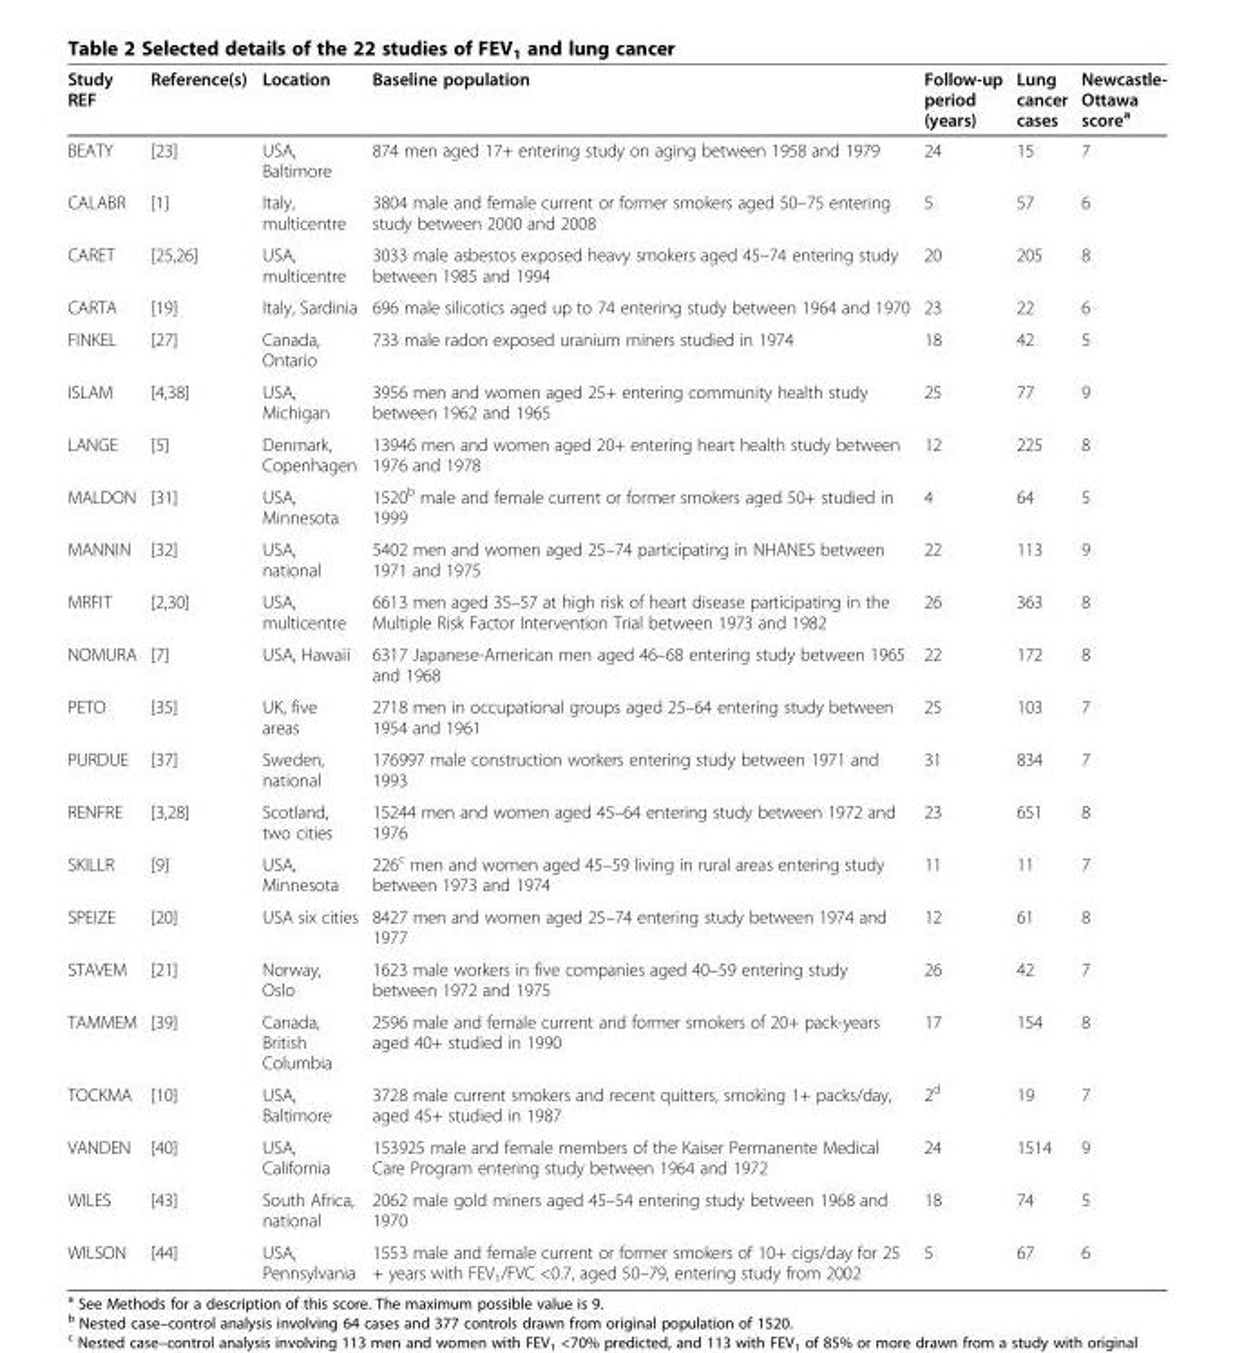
<table><thead><tr><td>Study REF</td><td>Reference(s)</td><td>Location</td><td>Baseline population</td><td>Follow-up period (years)</td><td>Lung cancer cases</td><td>Newcastle- Ottawa score<sup>a</sup></td></tr></thead><tbody><tr><td>BEATY</td><td>[23]</td><td>USA, Baltimore</td><td>874 men aged 17+ entering study on aging between 1958 and 1979</td><td>24</td><td>15</td><td>7</td></tr><tr><td>CALABR</td><td>[1]</td><td>Italy, multicentre</td><td>3804 male and female current or former smokers aged 50–75 entering study between 2000 and 2008</td><td>5</td><td>57</td><td>6</td></tr><tr><td>CARET</td><td>[25,26]</td><td>USA, multicentre</td><td>3033 male asbestos exposed heavy smokers aged 45–74 entering study between 1985 and 1994</td><td>20</td><td>205</td><td>8</td></tr><tr><td>CARTA</td><td>[19]</td><td>Italy, Sardinia</td><td>696 male silicotics aged up to 74 entering study between 1964 and 1970</td><td>23</td><td>22</td><td>6</td></tr><tr><td>FINKEL</td><td>[27]</td><td>Canada, Ontario</td><td>733 male radon exposed uranium miners studied in 1974</td><td>18</td><td>42</td><td>5</td></tr><tr><td>ISLAM</td><td>[4,38]</td><td>USA, Michigan</td><td>3956 men and women aged 25+ entering community health study between 1962 and 1965</td><td>25</td><td>77</td><td>9</td></tr><tr><td>LANGE</td><td>[5]</td><td>Denmark, Copenhagen</td><td>13946 men and women aged 20+ entering heart health study between 1976 and 1978</td><td>12</td><td>225</td><td>8</td></tr><tr><td>MALDON</td><td>[31]</td><td>USA, Minnesota</td><td>1520<sup>b</sup> male and female current or former smokers aged 50+ studied in 1999</td><td>4</td><td>64</td><td>5</td></tr><tr><td>MANNIN</td><td>[32]</td><td>USA, national</td><td>5402 men and women aged 25–74 participating in NHANES between 1971 and 1975</td><td>22</td><td>113</td><td>9</td></tr><tr><td>MRFIT</td><td>[2,30]</td><td>USA, multicentre</td><td>6613 men aged 35–57 at high risk of heart disease participating in the Multiple Risk Factor Intervention Trial between 1973 and 1982</td><td>26</td><td>363</td><td>8</td></tr><tr><td>NOMURA</td><td>[7]</td><td>USA, Hawaii</td><td>6317 Japanese-American men aged 46–68 entering study between 1965 and 1968</td><td>22</td><td>172</td><td>8</td></tr><tr><td>PETO</td><td>[35]</td><td>UK, five areas</td><td>2718 men in occupational groups aged 25–64 entering study between 1954 and 1961</td><td>25</td><td>103</td><td>7</td></tr><tr><td>PURDUE</td><td>[37]</td><td>Sweden, national</td><td>176997 male construction workers entering study between 1971 and 1993</td><td>31</td><td>834</td><td>7</td></tr><tr><td>RENFRE</td><td>[3,28]</td><td>Scotland, two cities</td><td>15244 men and women aged 45–64 entering study between 1972 and 1976</td><td>23</td><td>651</td><td>8</td></tr><tr><td>SKILLR</td><td>[9]</td><td>USA, Minnesota</td><td>226<sup>c</sup> men and women aged 45–59 living in rural areas entering study between 1973 and 1974</td><td>11</td><td>11</td><td>7</td></tr><tr><td>SPEIZE</td><td>[20]</td><td>USA six cities</td><td>8427 men and women aged 25–74 entering study between 1974 and 1977</td><td>12</td><td>61</td><td>8</td></tr><tr><td>STAVEM</td><td>[21]</td><td>Norway, Oslo</td><td>1623 male workers in five companies aged 40–59 entering study between 1972 and 1975</td><td>26</td><td>42</td><td>7</td></tr><tr><td>TAMMEM</td><td>[39]</td><td>Canada, British Columbia</td><td>2596 male and female current and former smokers of 20+ pack-years aged 40+ studied in 1990</td><td>17</td><td>154</td><td>8</td></tr><tr><td>TOCKMA</td><td>[10]</td><td>USA, Baltimore</td><td>3728 male current smokers and recent quitters, smoking 1+ packs/day, aged 45+ studied in 1987</td><td>2<sup>d</sup></td><td>19</td><td>7</td></tr><tr><td>VANDEN</td><td>[40]</td><td>USA, California</td><td>153925 male and female members of the Kaiser Permanente Medical Care Program entering study between 1964 and 1972</td><td>24</td><td>1514</td><td>9</td></tr><tr><td>WILES</td><td>[43]</td><td>South Africa, national</td><td>2062 male gold miners aged 45–54 entering study between 1968 and 1970</td><td>18</td><td>74</td><td>5</td></tr><tr><td>WILSON</td><td>[44]</td><td>USA, Pennsylvania</td><td>1553 male and female current or former smokers of 10+ cigs/day for 25 + years with FEV<sub>1</sub>/FVC &lt;0.7, aged 50–79, entering study from 2002</td><td>5</td><td>67</td><td>6</td></tr></tbody></table>